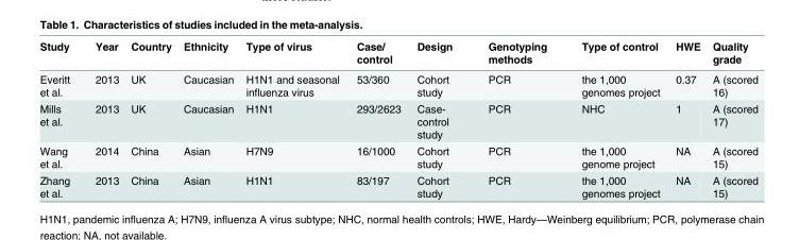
<table><thead><tr><td>Study</td><td>Year</td><td>Country</td><td>Ethnicity</td><td>Type of virus</td><td>Case/ control</td><td>Design</td><td>Genotyping methods</td><td>Type of control</td><td>HWE</td><td>Quality grade</td></tr></thead><tbody><tr><td>Everitt et al.</td><td>2013</td><td>UK</td><td>Caucasian</td><td>H1N1 and seasonal influenza virus</td><td>53/360</td><td>Cohort study</td><td>PCR</td><td>the 1,000 genomes project</td><td>0.37</td><td>A (scored 16)</td></tr><tr><td>Mills et al.</td><td>2013</td><td>UK</td><td>Caucasian</td><td>H1N1</td><td>293/2623</td><td>Case- control study</td><td>PCR</td><td>NHC</td><td>1</td><td>A (scored 17)</td></tr><tr><td>Wang et al.</td><td>2014</td><td>China</td><td>Asian</td><td>H7N9</td><td>16/1000</td><td>Cohort study</td><td>PCR</td><td>the 1,000 genome project</td><td>NA</td><td>A (scored 15)</td></tr><tr><td>Zhang et al.</td><td>2013</td><td>China</td><td>Asian</td><td>H1N1</td><td>83/197</td><td>Cohort study</td><td>PCR</td><td>the 1,000 genomes project</td><td>NA</td><td>A (scored 15)</td></tr></tbody></table>